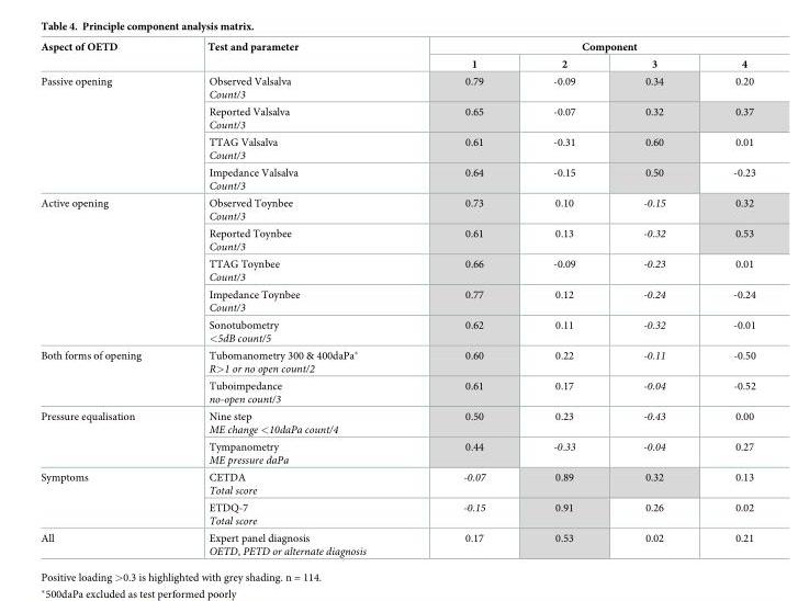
<table><thead><tr><td rowspan="2">Aspect of OETD</td><td rowspan="2">Test and parameter</td><td colspan="4">Component</td></tr><tr><td>1</td><td>2</td><td>3</td><td>4</td></tr></thead><tbody><tr><td rowspan="4">Passive opening</td><td>Observed Valsalva Count/3</td><td>0.79</td><td>-0.09</td><td>0.34</td><td>0.20</td></tr><tr><td>Reported Valsalva Count/3</td><td>0.65</td><td>-0.07</td><td>0.32</td><td>0.37</td></tr><tr><td>TTAG Valsalva Count/3</td><td>0.61</td><td>-0.31</td><td>0.60</td><td>0.01</td></tr><tr><td>Impedance Valsalva Count/3</td><td>0.64</td><td>-0.15</td><td>0.50</td><td>-0.23</td></tr><tr><td rowspan="5">Active opening</td><td>Observed Toynbee Count/3</td><td>0.73</td><td>0.10</td><td>-0.15</td><td>0.32</td></tr><tr><td>Reported Toynbee Count/3</td><td>0.61</td><td>0.13</td><td>-0.32</td><td>0.53</td></tr><tr><td>TTAG Toynbee Count/3</td><td>0.66</td><td>-0.09</td><td>-0.23</td><td>0.01</td></tr><tr><td>Impedance Toynbee Count/3</td><td>0.77</td><td>0.12</td><td>-0.24</td><td>-0.24</td></tr><tr><td>Sonotubometry &lt;5dB count/5</td><td>0.62</td><td>0.11</td><td>-0.32</td><td>-0.01</td></tr><tr><td rowspan="2">Both forms of opening</td><td>Tubomanometry 300 &amp; 400daPa* R&gt;1 or no open count/2</td><td>0.60</td><td>0.22</td><td>-0.11</td><td>-0.50</td></tr><tr><td>Tuboimpedance no-open count/3</td><td>0.61</td><td>0.17</td><td>-0.04</td><td>-0.52</td></tr><tr><td rowspan="2">Pressure equalisation</td><td>Nine step ME change &lt;10daPa count/4</td><td>0.50</td><td>0.23</td><td>-0.43</td><td>0.00</td></tr><tr><td>Tympanometry ME pressure daPa</td><td>0.44</td><td>-0.33</td><td>-0.04</td><td>0.27</td></tr><tr><td rowspan="2">Symptoms</td><td>CETDA Total score</td><td>-0.07</td><td>0.89</td><td>0.32</td><td>0.13</td></tr><tr><td>ETDQ-7 Total score</td><td>-0.15</td><td>0.91</td><td>0.26</td><td>0.02</td></tr><tr><td>All</td><td>Expert panel diagnosis OETD, PETD or alternate diagnosis</td><td>0.17</td><td>0.53</td><td>0.02</td><td>0.21</td></tr></tbody></table>